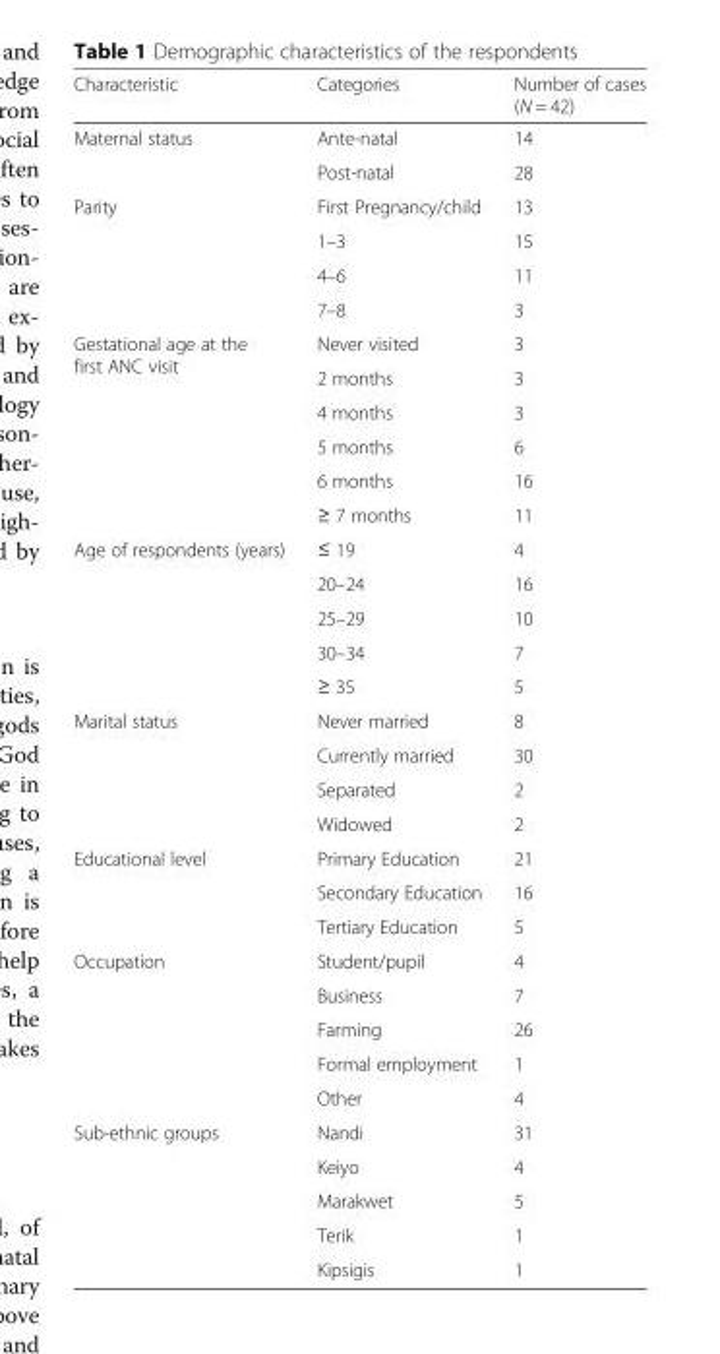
<table><thead><tr><td>Characteristic</td><td>Categories</td><td>Number of cases (N = 42)</td></tr></thead><tbody><tr><td rowspan="2">Maternal status</td><td>Ante-natal</td><td>14</td></tr><tr><td>Post-natal</td><td>28</td></tr><tr><td rowspan="4">Parity</td><td>First Pregnancy/child</td><td>13</td></tr><tr><td>1–3</td><td>15</td></tr><tr><td>4–6</td><td>11</td></tr><tr><td>7–8</td><td>3</td></tr><tr><td rowspan="6">Gestational age at the first ANC visit</td><td>Never visited</td><td>3</td></tr><tr><td>2 months</td><td>3</td></tr><tr><td>4 months</td><td>3</td></tr><tr><td>5 months</td><td>6</td></tr><tr><td>6 months</td><td>16</td></tr><tr><td>≥ 7 months</td><td>11</td></tr><tr><td rowspan="5">Age of respondents (years)</td><td>≤ 19</td><td>4</td></tr><tr><td>20–24</td><td>16</td></tr><tr><td>25–29</td><td>10</td></tr><tr><td>30–34</td><td>7</td></tr><tr><td>≥ 35</td><td>5</td></tr><tr><td rowspan="4">Marital status</td><td>Never married</td><td>8</td></tr><tr><td>Currently married</td><td>30</td></tr><tr><td>Separated</td><td>2</td></tr><tr><td>Widowed</td><td>2</td></tr><tr><td rowspan="3">Educational level</td><td>Primary Education</td><td>21</td></tr><tr><td>Secondary Education</td><td>16</td></tr><tr><td>Tertiary Education</td><td>5</td></tr><tr><td rowspan="5">Occupation</td><td>Student/pupil</td><td>4</td></tr><tr><td>Business</td><td>7</td></tr><tr><td>Farming</td><td>26</td></tr><tr><td>Formal employment</td><td>1</td></tr><tr><td>Other</td><td>4</td></tr><tr><td rowspan="5">Sub-ethnic groups</td><td>Nandi</td><td>31</td></tr><tr><td>Keiyo</td><td>4</td></tr><tr><td>Marakwet</td><td>5</td></tr><tr><td>Terik</td><td>1</td></tr><tr><td>Kipsigis</td><td>1</td></tr></tbody></table>